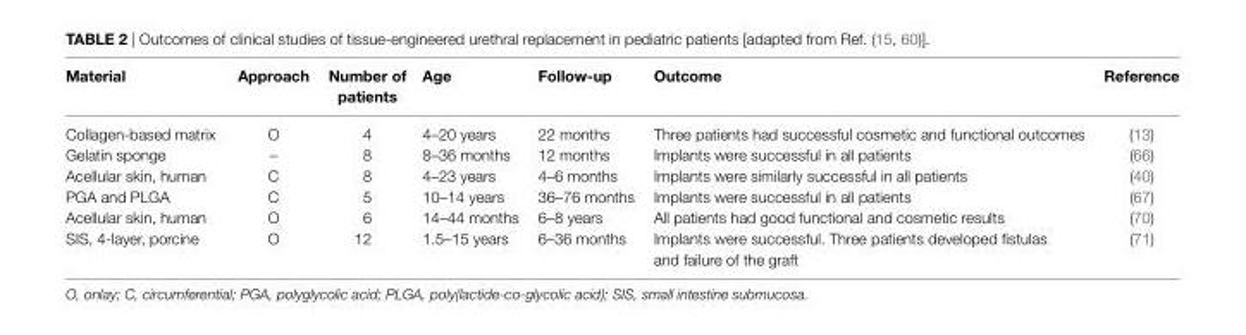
<table><thead><tr><td>Material</td><td>Approach</td><td>Number of patients</td><td>Age</td><td>Follow-up</td><td>Outcome</td><td>Reference</td></tr></thead><tbody><tr><td>Collagen-based matrix</td><td>O</td><td>4</td><td>4–20 years</td><td>22 months</td><td>Three patients had successful cosmetic and functional outcomes</td><td>(13)</td></tr><tr><td>Gelatin sponge</td><td>–</td><td>8</td><td>8–36 months</td><td>12 months</td><td>Implants were successful in all patients</td><td>(66)</td></tr><tr><td>Acellular skin, human</td><td>C</td><td>8</td><td>4–23 years</td><td>4–6 months</td><td>Implants were similarly successful in all patients</td><td>(40)</td></tr><tr><td>PGA and PLGA</td><td>C</td><td>5</td><td>10–14 years</td><td>36–76 months</td><td>Implants were successful in all patients</td><td>(67)</td></tr><tr><td>Acellular skin, human</td><td>O</td><td>6</td><td>14–44 months</td><td>6–8 years</td><td>All patients had good functional and cosmetic results</td><td>(70)</td></tr><tr><td>SIS, 4-layer, porcine</td><td>O</td><td>12</td><td>1.5–15 years</td><td>6–36 months</td><td>Implants were successful. Three patients developed fistulas and failure of the graft</td><td>(71)</td></tr></tbody></table>